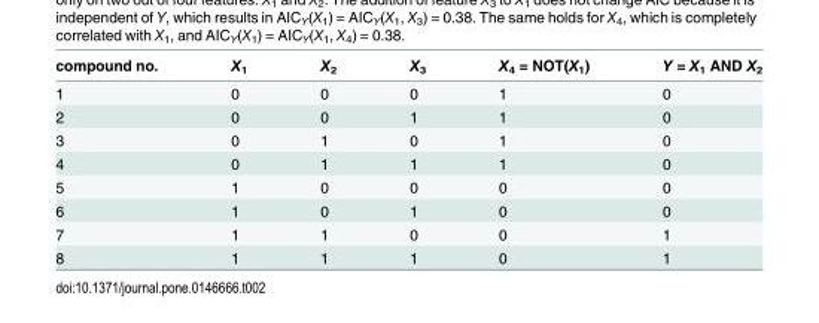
<table><thead><tr><td>compound no.</td><td>X<sub>1</sub></td><td>X<sub>2</sub></td><td>X<sub>3</sub></td><td>X<sub>4</sub> = NOT(X<sub>1</sub>)</td><td>Y = X<sub>1</sub> AND X<sub>2</sub></td></tr></thead><tbody><tr><td>1</td><td>0</td><td>0</td><td>0</td><td>1</td><td>0</td></tr><tr><td>2</td><td>0</td><td>0</td><td>1</td><td>1</td><td>0</td></tr><tr><td>3</td><td>0</td><td>1</td><td>0</td><td>1</td><td>0</td></tr><tr><td>4</td><td>0</td><td>1</td><td>1</td><td>1</td><td>0</td></tr><tr><td>5</td><td>1</td><td>0</td><td>0</td><td>0</td><td>0</td></tr><tr><td>6</td><td>1</td><td>0</td><td>1</td><td>0</td><td>0</td></tr><tr><td>7</td><td>1</td><td>1</td><td>0</td><td>0</td><td>1</td></tr><tr><td>8</td><td>1</td><td>1</td><td>1</td><td>0</td><td>1</td></tr></tbody></table>